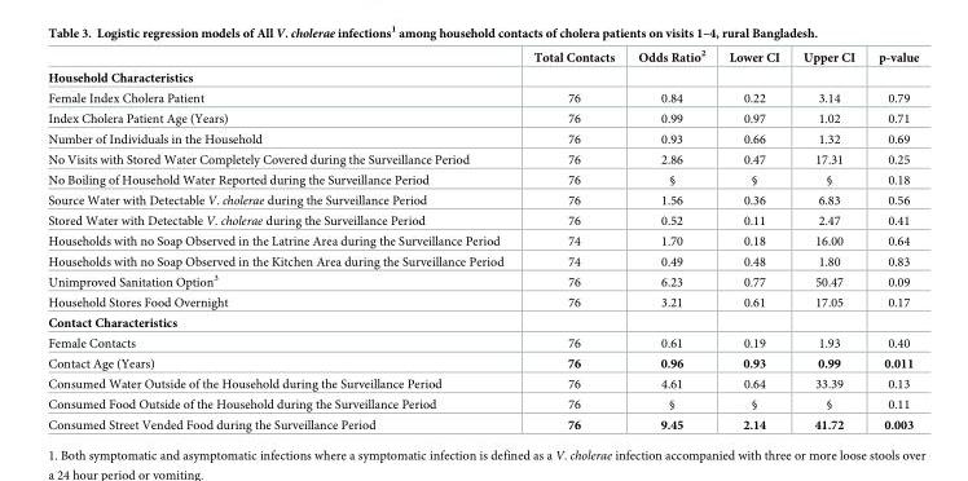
<table><thead><tr><td></td><td>Total Contacts</td><td>Odds Ratio<sup>2</sup></td><td>Lower CI</td><td>Upper CI</td><td>p-value</td></tr></thead><tbody><tr><td colspan="6">Household Characteristics</td></tr><tr><td>Female Index Cholera Patient</td><td>76</td><td>0.84</td><td>0.22</td><td>3.14</td><td>0.79</td></tr><tr><td>Index Cholera Patient Age (Years)</td><td>76</td><td>0.99</td><td>0.97</td><td>1.02</td><td>0.71</td></tr><tr><td>Number of Individuals in the Household</td><td>76</td><td>0.93</td><td>0.66</td><td>1.32</td><td>0.69</td></tr><tr><td>No Visits with Stored Water Completely Covered during the Surveillance Period</td><td>76</td><td>2.86</td><td>0.47</td><td>17.31</td><td>0.25</td></tr><tr><td>No Boiling of Household Water Reported during the Surveillance Period</td><td>76</td><td>§</td><td>§</td><td>§</td><td>0.18</td></tr><tr><td>Source Water with Detectable V. cholerae during the Surveillance Period</td><td>76</td><td>1.56</td><td>0.36</td><td>6.83</td><td>0.56</td></tr><tr><td>Stored Water with Detectable V. cholerae during the Surveillance Period</td><td>76</td><td>0.52</td><td>0.11</td><td>2.47</td><td>0.41</td></tr><tr><td>Households with no Soap Observed in the Latrine Area during the Surveillance Period</td><td>74</td><td>1.70</td><td>0.18</td><td>16.00</td><td>0.64</td></tr><tr><td>Households with no Soap Observed in the Kitchen Area during the Surveillance Period</td><td>74</td><td>0.49</td><td>0.48</td><td>1.80</td><td>0.83</td></tr><tr><td>Unimproved Sanitation Option<sup>3</sup></td><td>76</td><td>6.23</td><td>0.77</td><td>50.47</td><td>0.09</td></tr><tr><td>Household Stores Food Overnight</td><td>76</td><td>3.21</td><td>0.61</td><td>17.05</td><td>0.17</td></tr><tr><td colspan="6">Contact Characteristics</td></tr><tr><td>Female Contacts</td><td>76</td><td>0.61</td><td>0.19</td><td>1.93</td><td>0.40</td></tr><tr><td>Contact Age (Years)</td><td>76</td><td>0.96</td><td>0.93</td><td>0.99</td><td>0.011</td></tr><tr><td>Consumed Water Outside of the Household during the Surveillance Period</td><td>76</td><td>4.61</td><td>0.64</td><td>33.39</td><td>0.13</td></tr><tr><td>Consumed Food Outside of the Household during the Surveillance Period</td><td>76</td><td>§</td><td>§</td><td>§</td><td>0.11</td></tr><tr><td>Consumed Street Vended Food during the Surveillance Period</td><td>76</td><td>9.45</td><td>2.14</td><td>41.72</td><td>0.003</td></tr></tbody></table>